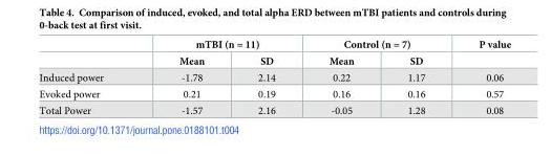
<table><thead><tr><td rowspan="2"></td><td colspan="2">mTBI (n = 11)</td><td colspan="2">Control (n = 7)</td><td rowspan="2">P value</td></tr><tr><td>Mean</td><td>SD</td><td>Mean</td><td>SD</td></tr></thead><tbody><tr><td>Induced power</td><td>-1.78</td><td>2.14</td><td>0.22</td><td>1.17</td><td>0.06</td></tr><tr><td>Evoked power</td><td>0.21</td><td>0.19</td><td>0.16</td><td>0.16</td><td>0.57</td></tr><tr><td>Total Power</td><td>-1.57</td><td>2.16</td><td>-0.05</td><td>1.28</td><td>0.08</td></tr></tbody></table>